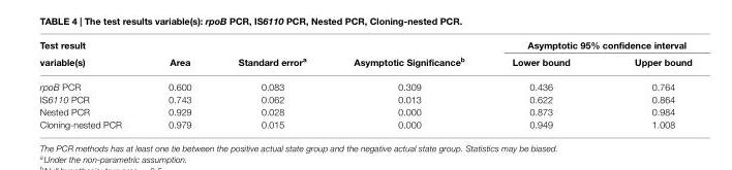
<table><thead><tr><td rowspan="2">Test result variable(s)</td><td rowspan="2">Area</td><td rowspan="2">Standard error<sup>a</sup></td><td rowspan="2">Asymptotic Significance<sup>b</sup></td><td colspan="2">Asymptotic 95% confidence interval</td></tr><tr><td>Lower bound</td><td>Upper bound</td></tr></thead><tbody><tr><td>rpoB PCR</td><td>0.600</td><td>0.083</td><td>0.309</td><td>0.436</td><td>0.764</td></tr><tr><td>IS6110 PCR</td><td>0.743</td><td>0.062</td><td>0.013</td><td>0.622</td><td>0.864</td></tr><tr><td>Nested PCR</td><td>0.929</td><td>0.028</td><td>0.000</td><td>0.873</td><td>0.984</td></tr><tr><td>Cloning-nested PCR</td><td>0.979</td><td>0.015</td><td>0.000</td><td>0.949</td><td>1.008</td></tr></tbody></table>